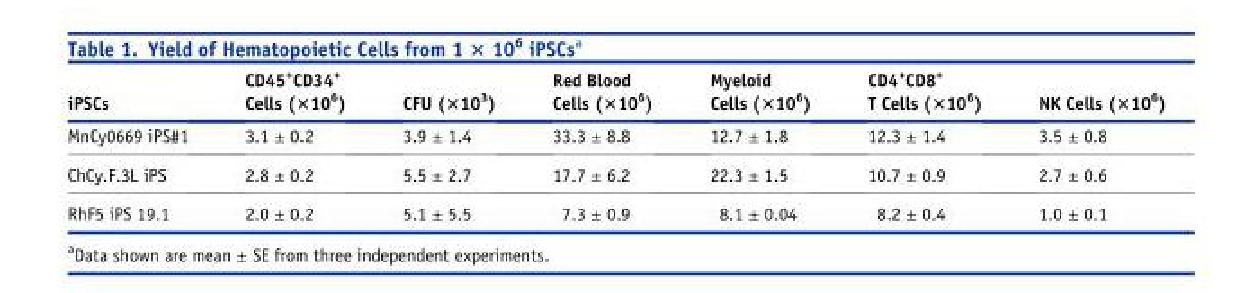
<table><thead><tr><td>iPSCs</td><td>CD45<sup>+</sup>CD34<sup>+</sup> Cells (×10<sup>6</sup>)</td><td>CFU (×10<sup>3</sup>)</td><td>Red Blood Cells (×10<sup>6</sup>)</td><td>Myeloid Cells (×10<sup>6</sup>)</td><td>CD4<sup>+</sup>CD8<sup>+</sup> T Cells (×10<sup>6</sup>)</td><td>NK Cells (×10<sup>6</sup>)</td></tr></thead><tbody><tr><td>MnCy0669 iPS#1</td><td>3.1 ± 0.2</td><td>3.9 ± 1.4</td><td>33.3 ± 8.8</td><td>12.7 ± 1.8</td><td>12.3 ± 1.4</td><td>3.5 ± 0.8</td></tr><tr><td>ChCy.F.3L iPS</td><td>2.8 ± 0.2</td><td>5.5 ± 2.7</td><td>17.7 ± 6.2</td><td>22.3 ± 1.5</td><td>10.7 ± 0.9</td><td>2.7 ± 0.6</td></tr><tr><td>RhF5 iPS 19.1</td><td>2.0 ± 0.2</td><td>5.1 ± 5.5</td><td>7.3 ± 0.9</td><td>8.1 ± 0.04</td><td>8.2 ± 0.4</td><td>1.0 ± 0.1</td></tr></tbody></table>